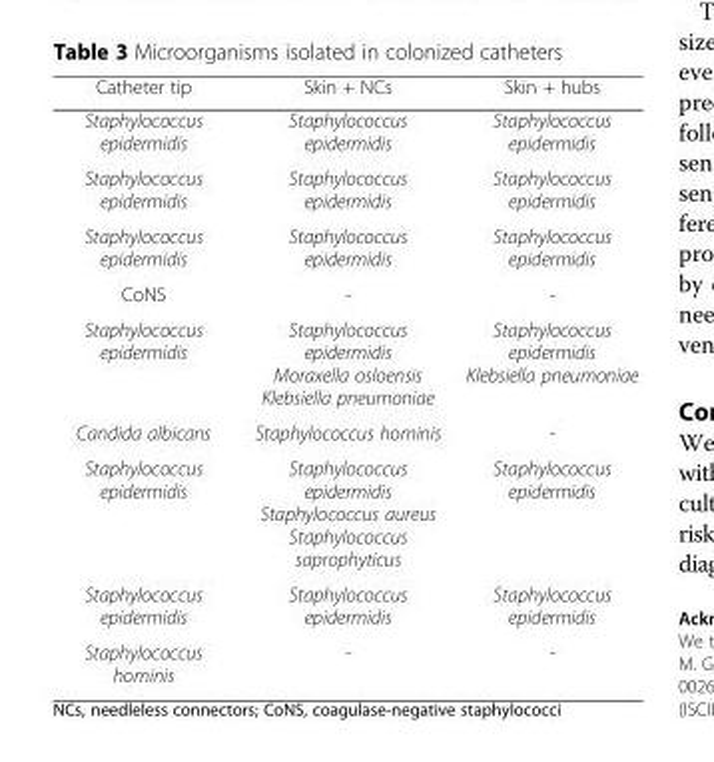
<table><thead><tr><td>Catheter tip</td><td>Skin + NCs</td><td>Skin + hubs</td></tr></thead><tbody><tr><td>Staphylococcus epidermidis</td><td>Staphylococcus epidermidis</td><td>Staphylococcus epidermidis</td></tr><tr><td>Staphylococcus epidermidis</td><td>Staphylococcus epidermidis</td><td>Staphylococcus epidermidis</td></tr><tr><td>Staphylococcus epidermidis</td><td>Staphylococcus epidermidis</td><td>Staphylococcus epidermidis</td></tr><tr><td>CoNS</td><td>-</td><td>-</td></tr><tr><td>Staphylococcus epidermidis</td><td>Staphylococcus epidermidis Moraxella osloensis Klebsiella pneumoniae</td><td>Staphylococcus epidermidis Klebsiella pneumoniae</td></tr><tr><td>Candida albicans</td><td>Staphylococcus hominis</td><td>-</td></tr><tr><td>Staphylococcus epidermidis</td><td>Staphylococcus epidermidis Staphylococcus aureus Staphylococcus saprophyticus</td><td>Staphylococcus epidermidis</td></tr><tr><td>Staphylococcus epidermidis</td><td>Staphylococcus epidermidis</td><td>Staphylococcus epidermidis</td></tr><tr><td>Staphylococcus hominis</td><td>-</td><td>-</td></tr></tbody></table>